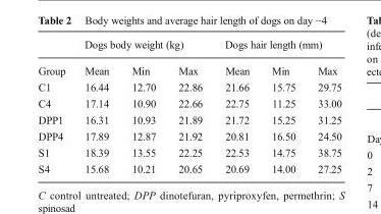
<table><thead><tr><td rowspan="2">Group</td><td colspan="3">Dogs body weight (kg)</td><td colspan="3">Dogs hair length (mm)</td></tr><tr><td>Mean</td><td>Min</td><td>Max</td><td>Mean</td><td>Min</td><td>Max</td></tr></thead><tbody><tr><td>C1</td><td>16.44</td><td>12.70</td><td>22.86</td><td>21.66</td><td>15.75</td><td>29.75</td></tr><tr><td>C4</td><td>17.14</td><td>10.90</td><td>22.66</td><td>22.75</td><td>11.25</td><td>33.00</td></tr><tr><td>DPP1</td><td>16.31</td><td>10.93</td><td>21.89</td><td>21.72</td><td>15.25</td><td>31.25</td></tr><tr><td>DPP4</td><td>17.89</td><td>12.87</td><td>21.92</td><td>20.81</td><td>16.50</td><td>24.50</td></tr><tr><td>S1</td><td>18.39</td><td>13.55</td><td>22.25</td><td>22.53</td><td>14.75</td><td>38.75</td></tr><tr><td>S4</td><td>15.68</td><td>10.21</td><td>20.65</td><td>20.69</td><td>14.00</td><td>27.25</td></tr></tbody></table>